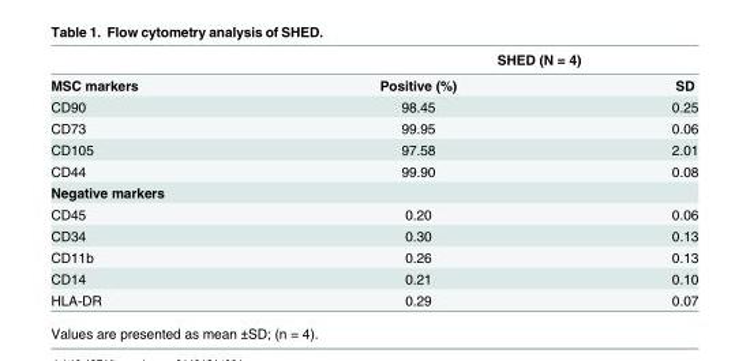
<table><thead><tr><td rowspan="2">MSC markers</td><td colspan="2">SHED (N = 4)</td></tr><tr><td>Positive (%)</td><td>SD</td></tr></thead><tbody><tr><td>CD90</td><td>98.45</td><td>0.25</td></tr><tr><td>CD73</td><td>99.95</td><td>0.06</td></tr><tr><td>CD105</td><td>97.58</td><td>2.01</td></tr><tr><td>CD44</td><td>99.90</td><td>0.08</td></tr><tr><td colspan="3">Negative markers</td></tr><tr><td>CD45</td><td>0.20</td><td>0.06</td></tr><tr><td>CD34</td><td>0.30</td><td>0.13</td></tr><tr><td>CD11b</td><td>0.26</td><td>0.13</td></tr><tr><td>CD14</td><td>0.21</td><td>0.10</td></tr><tr><td>HLA-DR</td><td>0.29</td><td>0.07</td></tr></tbody></table>